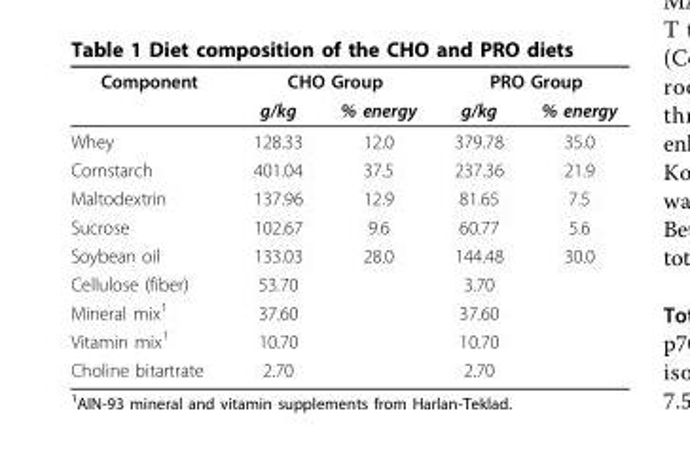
<table><thead><tr><td rowspan="2">Component</td><td colspan="2">CHO Group</td><td colspan="2">PRO Group</td></tr><tr><td>g/kg</td><td>% energy</td><td>g/kg</td><td>% energy</td></tr></thead><tbody><tr><td>Whey</td><td>128.33</td><td>12.0</td><td>379.78</td><td>35.0</td></tr><tr><td>Cornstarch</td><td>401.04</td><td>37.5</td><td>237.36</td><td>21.9</td></tr><tr><td>Maltodextrin</td><td>137.96</td><td>12.9</td><td>81.65</td><td>7.5</td></tr><tr><td>Sucrose</td><td>102.67</td><td>9.6</td><td>60.77</td><td>5.6</td></tr><tr><td>Soybean oil</td><td>133.03</td><td>28.0</td><td>144.48</td><td>30.0</td></tr><tr><td>Cellulose (fiber)</td><td>53.70</td><td></td><td>3.70</td><td></td></tr><tr><td>Mineral mix<sup>1</sup></td><td>37.60</td><td></td><td>37.60</td><td></td></tr><tr><td>Vitamin mix<sup>1</sup></td><td>10.70</td><td></td><td>10.70</td><td></td></tr><tr><td>Choline bitartrate</td><td>2.70</td><td></td><td>2.70</td><td></td></tr></tbody></table>